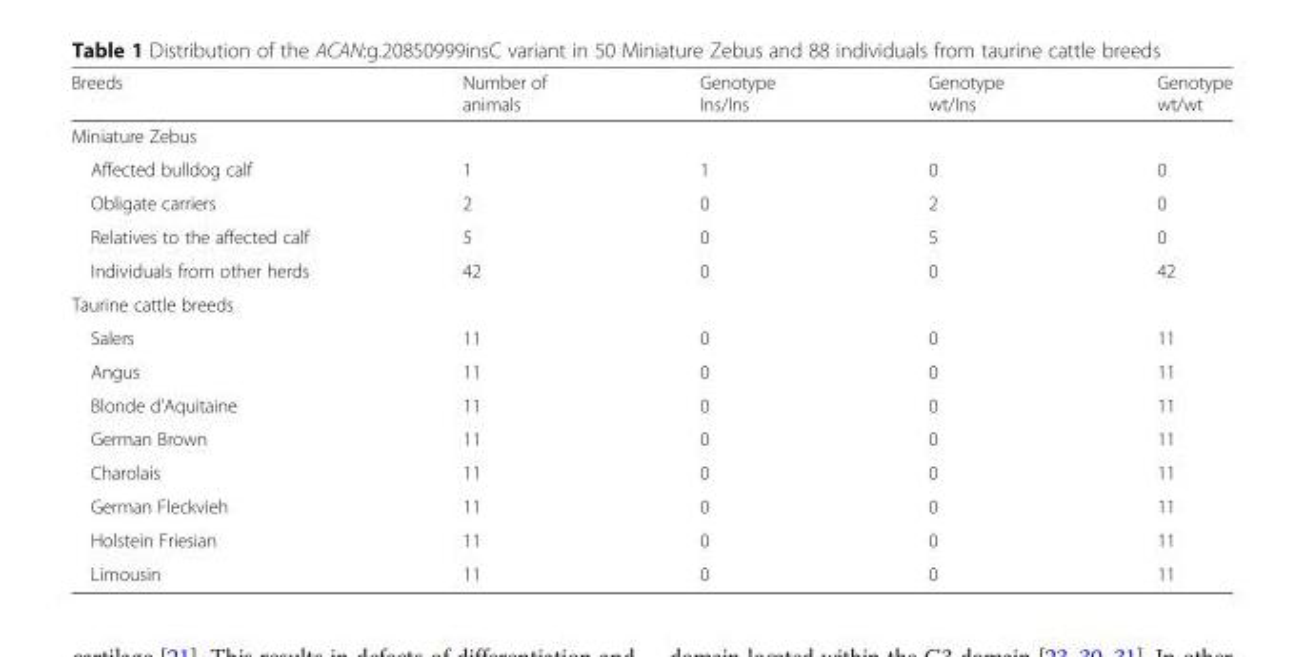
<table><thead><tr><td>Breeds</td><td>Number of animals</td><td>Genotype Ins/Ins</td><td>Genotype wt/Ins</td><td>Genotype wt/wt</td></tr></thead><tbody><tr><td colspan="5">Miniature Zebus</td></tr><tr><td>Affected bulldog calf</td><td>1</td><td>1</td><td>0</td><td>0</td></tr><tr><td>Obligate carriers</td><td>2</td><td>0</td><td>2</td><td>0</td></tr><tr><td>Relatives to the affected calf</td><td>5</td><td>0</td><td>5</td><td>0</td></tr><tr><td>Individuals from other herds</td><td>42</td><td>0</td><td>0</td><td>42</td></tr><tr><td colspan="5">Taurine cattle breeds</td></tr><tr><td>Salers</td><td>11</td><td>0</td><td>0</td><td>11</td></tr><tr><td>Angus</td><td>11</td><td>0</td><td>0</td><td>11</td></tr><tr><td>Blonde d’Aquitaine</td><td>11</td><td>0</td><td>0</td><td>11</td></tr><tr><td>German Brown</td><td>11</td><td>0</td><td>0</td><td>11</td></tr><tr><td>Charolais</td><td>11</td><td>0</td><td>0</td><td>11</td></tr><tr><td>German Fleckvieh</td><td>11</td><td>0</td><td>0</td><td>11</td></tr><tr><td>Holstein Friesian</td><td>11</td><td>0</td><td>0</td><td>11</td></tr><tr><td>Limousin</td><td>11</td><td>0</td><td>0</td><td>11</td></tr></tbody></table>